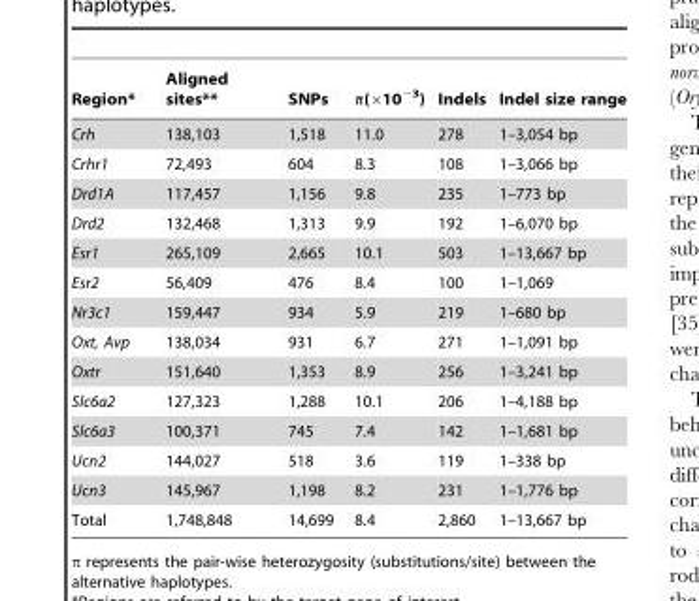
<table><thead><tr><td>Region*</td><td>Aligned sites**</td><td>SNPs</td><td>π(×10<sup>−3</sup>)</td><td>Indels</td><td>Indel size range</td></tr></thead><tbody><tr><td>Crh</td><td>138,103</td><td>1,518</td><td>11.0</td><td>278</td><td>1–3,054 bp</td></tr><tr><td>Crhr1</td><td>72,493</td><td>604</td><td>8.3</td><td>108</td><td>1–3,066 bp</td></tr><tr><td>Drd1A</td><td>117,457</td><td>1,156</td><td>9.8</td><td>235</td><td>1–773 bp</td></tr><tr><td>Drd2</td><td>132,468</td><td>1,313</td><td>9.9</td><td>192</td><td>1–6,070 bp</td></tr><tr><td>Esr1</td><td>265,109</td><td>2,665</td><td>10.1</td><td>503</td><td>1–13,667 bp</td></tr><tr><td>Esr2</td><td>56,409</td><td>476</td><td>8.4</td><td>100</td><td>1–1,069</td></tr><tr><td>Nr3c1</td><td>159,447</td><td>934</td><td>5.9</td><td>219</td><td>1–680 bp</td></tr><tr><td>Oxt, Avp</td><td>138,034</td><td>931</td><td>6.7</td><td>271</td><td>1–1,091 bp</td></tr><tr><td>Oxtr</td><td>151,640</td><td>1,353</td><td>8.9</td><td>256</td><td>1–3,241 bp</td></tr><tr><td>Slc6a2</td><td>127,323</td><td>1,288</td><td>10.1</td><td>206</td><td>1–4,188 bp</td></tr><tr><td>Slc6a3</td><td>100,371</td><td>745</td><td>7.4</td><td>142</td><td>1–1,681 bp</td></tr><tr><td>Ucn2</td><td>144,027</td><td>518</td><td>3.6</td><td>119</td><td>1–338 bp</td></tr><tr><td>Ucn3</td><td>145,967</td><td>1,198</td><td>8.2</td><td>231</td><td>1–1,776 bp</td></tr><tr><td>Total</td><td>1,748,848</td><td>14,699</td><td>8.4</td><td>2,860</td><td>1–13,667 bp</td></tr></tbody></table>